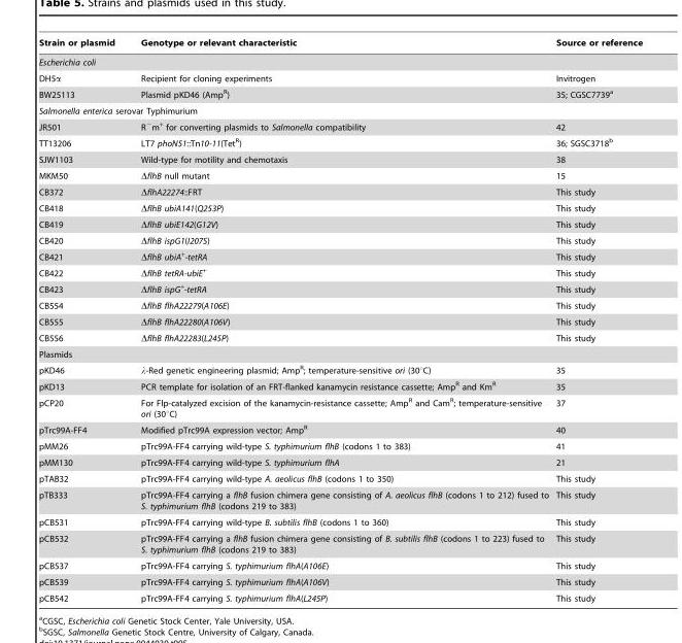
<table><thead><tr><td>Strain or plasmid</td><td>Genotype or relevant characteristic</td><td>Source or reference</td></tr></thead><tbody><tr><td colspan="3">Escherichia coli</td></tr><tr><td>DH5α</td><td>Recipient for cloning experiments</td><td>Invitrogen</td></tr><tr><td>BW25113</td><td>Plasmid pKD46 (Amp<sup>R</sup>)</td><td>35; CGSC7739<sup>a</sup></td></tr><tr><td colspan="3">Salmonella enterica serovar Typhimurium</td></tr><tr><td>JR501</td><td>R<sup>−</sup>m<sup>+</sup> for converting plasmids to Salmonella compatibility</td><td>42</td></tr><tr><td>TT13206</td><td>LT7 phoN51::Tn10-11(Tet<sup>R</sup>)</td><td>36; SGSC3718<sup>b</sup></td></tr><tr><td>SJW1103</td><td>Wild-type for motility and chemotaxis</td><td>38</td></tr><tr><td>MKM50</td><td>ΔflhB null mutant</td><td>15</td></tr><tr><td>CB372</td><td>ΔflhA22274::FRT</td><td>This study</td></tr><tr><td>CB418</td><td>ΔflhB ubiA141(Q253P)</td><td>This study</td></tr><tr><td>CB419</td><td>ΔflhB ubiE142(G12V)</td><td>This study</td></tr><tr><td>CB420</td><td>ΔflhB ispG1(I207S)</td><td>This study</td></tr><tr><td>CB421</td><td>ΔflhB ubiA<sup>+</sup>-tetRA</td><td>This study</td></tr><tr><td>CB422</td><td>ΔflhB tetRA-ubiE<sup>+</sup></td><td>This study</td></tr><tr><td>CB423</td><td>ΔflhB ispG<sup>+</sup>-tetRA</td><td>This study</td></tr><tr><td>CB554</td><td>ΔflhB flhA22279(A106E)</td><td>This study</td></tr><tr><td>CB555</td><td>ΔflhB flhA22280(A106V)</td><td>This study</td></tr><tr><td>CB556</td><td>ΔflhB flhA22283(L245P)</td><td>This study</td></tr><tr><td colspan="3">Plasmids</td></tr><tr><td>pKD46</td><td>λ-Red genetic engineering plasmid; Amp<sup>R</sup>; temperature-sensitive ori (30°C)</td><td>35</td></tr><tr><td>pKD13</td><td>PCR template for isolation of an FRT-flanked kanamycin resistance cassette; Amp<sup>R</sup> and Km<sup>R</sup></td><td>35</td></tr><tr><td>pCP20</td><td>For Flp-catalyzed excision of the kanamycin-resistance cassette; Amp<sup>R</sup> and Cam<sup>R</sup>; temperature-sensitive ori (30°C)</td><td>37</td></tr><tr><td>pTrc99A-FF4</td><td>Modified pTrc99A expression vector; Amp<sup>R</sup></td><td>40</td></tr><tr><td>pMM26</td><td>pTrc99A-FF4 carrying wild-type S. typhimurium flhB (codons 1 to 383)</td><td>41</td></tr><tr><td>pMM130</td><td>pTrc99A-FF4 carrying wild-type S. typhimurium flhA</td><td>21</td></tr><tr><td>pTAB32</td><td>pTrc99A-FF4 carrying wild-type A. aeolicus flhB (codons 1 to 350)</td><td>This study</td></tr><tr><td>pTB333</td><td>pTrc99A-FF4 carrying a flhB fusion chimera gene consisting of A. aeolicus flhB (codons 1 to 212) fused to S. typhimurium flhB (codons 219 to 383)</td><td>This study</td></tr><tr><td>pCB531</td><td>pTrc99A-FF4 carrying wild-type B. subtilis flhB (codons 1 to 360)</td><td>This study</td></tr><tr><td>pCB532</td><td>pTrc99A-FF4 carrying a flhB fusion chimera gene consisting of B. subtilis flhB (codons 1 to 223) fused to S. typhimurium flhB (codons 219 to 383)</td><td>This study</td></tr><tr><td>pCB537</td><td>pTrc99A-FF4 carrying S. typhimurium flhA(A106E)</td><td>This study</td></tr><tr><td>pCB539</td><td>pTrc99A-FF4 carrying S. typhimurium flhA(A106V)</td><td>This study</td></tr><tr><td>pCB542</td><td>pTrc99A-FF4 carrying S. typhimurium flhA(L245P)</td><td>This study</td></tr></tbody></table>